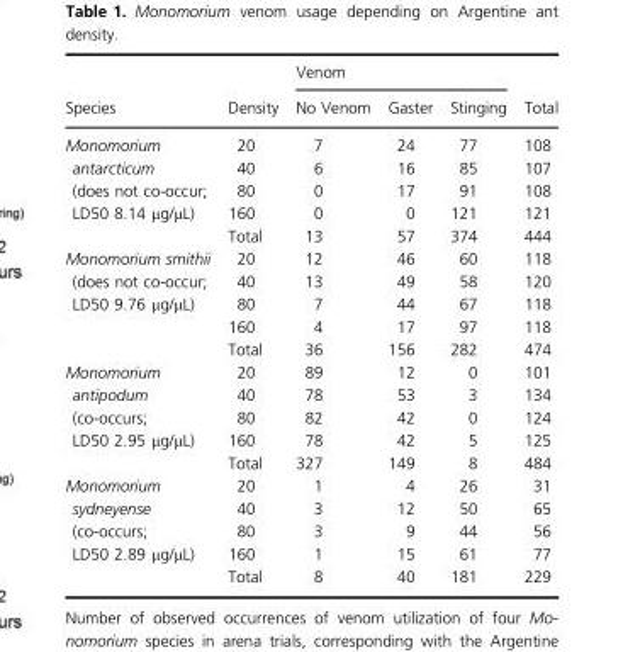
<table><thead><tr><td rowspan="2">Species</td><td rowspan="2">Density</td><td colspan="3">Venom</td><td rowspan="2">Total</td></tr><tr><td>No Venom</td><td>Gaster</td><td>Stinging</td></tr></thead><tbody><tr><td rowspan="5">Monomorium antarcticum (does not co-occur; LD50 8.14 μg/μL)</td><td>20</td><td>7</td><td>24</td><td>77</td><td>108</td></tr><tr><td>40</td><td>6</td><td>16</td><td>85</td><td>107</td></tr><tr><td>80</td><td>0</td><td>17</td><td>91</td><td>108</td></tr><tr><td>160</td><td>0</td><td>0</td><td>121</td><td>121</td></tr><tr><td>Total</td><td>13</td><td>57</td><td>374</td><td>444</td></tr><tr><td rowspan="5">Monomorium smithii (does not co-occur; LD50 9.76 μg/μL)</td><td>20</td><td>12</td><td>46</td><td>60</td><td>118</td></tr><tr><td>40</td><td>13</td><td>49</td><td>58</td><td>120</td></tr><tr><td>80</td><td>7</td><td>44</td><td>67</td><td>118</td></tr><tr><td>160</td><td>4</td><td>17</td><td>97</td><td>118</td></tr><tr><td>Total</td><td>36</td><td>156</td><td>282</td><td>474</td></tr><tr><td rowspan="5">Monomorium antipodum (co-occurs; LD50 2.95 μg/μL)</td><td>20</td><td>89</td><td>12</td><td>0</td><td>101</td></tr><tr><td>40</td><td>78</td><td>53</td><td>3</td><td>134</td></tr><tr><td>80</td><td>82</td><td>42</td><td>0</td><td>124</td></tr><tr><td>160</td><td>78</td><td>42</td><td>5</td><td>125</td></tr><tr><td>Total</td><td>327</td><td>149</td><td>8</td><td>484</td></tr><tr><td rowspan="5">Monomorium sydneyense (co-occurs; LD50 2.89 μg/μL)</td><td>20</td><td>1</td><td>4</td><td>26</td><td>31</td></tr><tr><td>40</td><td>3</td><td>12</td><td>50</td><td>65</td></tr><tr><td>80</td><td>3</td><td>9</td><td>44</td><td>56</td></tr><tr><td>160</td><td>1</td><td>15</td><td>61</td><td>77</td></tr><tr><td>Total</td><td>8</td><td>40</td><td>181</td><td>229</td></tr></tbody></table>